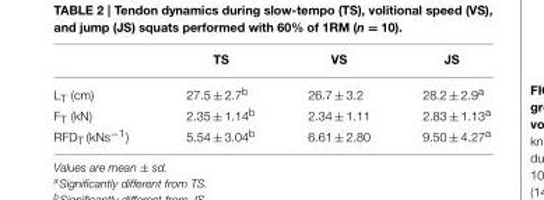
<table><thead><tr><td></td><td>TS</td><td>VS</td><td>JS</td></tr></thead><tbody><tr><td>L<sub>T</sub> (cm)</td><td>27.5 ± 2.7<sup>b</sup></td><td>26.7 ± 3.2</td><td>28.2 ± 2.9<sup>a</sup></td></tr><tr><td>F<sub>T</sub> (kN)</td><td>2.35 ± 1.14<sup>b</sup></td><td>2.34 ± 1.11</td><td>2.83 ± 1.13<sup>a</sup></td></tr><tr><td>RFD<sub>T</sub> (kNs<sup>−1</sup>)</td><td>5.54 ± 3.04<sup>b</sup></td><td>6.61 ± 2.80</td><td>9.50 ± 4.27<sup>a</sup></td></tr></tbody></table>